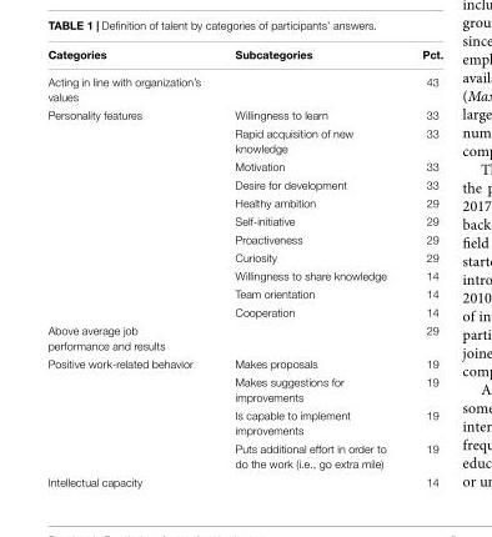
<table><thead><tr><td>Categories</td><td>Subcategories</td><td>Pct.</td></tr></thead><tbody><tr><td>Acting in line with organization’s values</td><td></td><td>43</td></tr><tr><td rowspan="11">Personality features</td><td>Willingness to learn</td><td>33</td></tr><tr><td>Rapid acquisition of new knowledge</td><td>33</td></tr><tr><td>Motivation</td><td>33</td></tr><tr><td>Desire for development</td><td>33</td></tr><tr><td>Healthy ambition</td><td>29</td></tr><tr><td>Self-initiative</td><td>29</td></tr><tr><td>Proactiveness</td><td>29</td></tr><tr><td>Curiosity</td><td>29</td></tr><tr><td>Willingness to share knowledge</td><td>14</td></tr><tr><td>Team orientation</td><td>14</td></tr><tr><td>Cooperation</td><td>14</td></tr><tr><td>Above average job performance and results</td><td></td><td>29</td></tr><tr><td rowspan="4">Positive work-related behavior</td><td>Makes proposals</td><td>19</td></tr><tr><td>Makes suggestions for improvements</td><td>19</td></tr><tr><td>Is capable to implement improvements</td><td>19</td></tr><tr><td>Puts additional effort in order to do the work (i.e., go extra mile)</td><td>19</td></tr><tr><td>Intellectual capacity</td><td></td><td>14</td></tr></tbody></table>